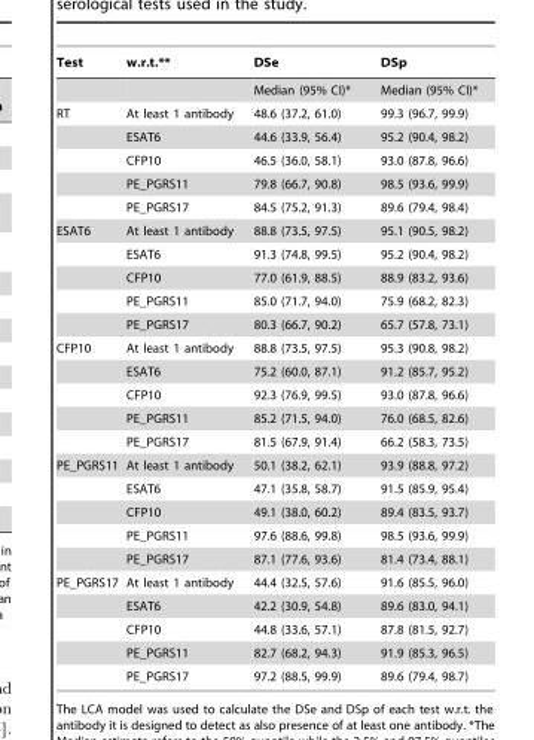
<table><thead><tr><td>Test</td><td>w.r.t.**</td><td>DSe</td><td>DSp</td></tr></thead><tbody><tr><td></td><td></td><td>Median (95% CI)*</td><td>Median (95% CI)*</td></tr><tr><td rowspan="5">RT</td><td>At least 1 antibody</td><td>48.6 (37.2, 61.0)</td><td>99.3 (96.7, 99.9)</td></tr><tr><td>ESAT6</td><td>44.6 (33.9, 56.4)</td><td>95.2 (90.4, 98.2)</td></tr><tr><td>CFP10</td><td>46.5 (36.0, 58.1)</td><td>93.0 (87.8, 96.6)</td></tr><tr><td>PE_PGRS11</td><td>79.8 (66.7, 90.8)</td><td>98.5 (93.6, 99.9)</td></tr><tr><td>PE_PGRS17</td><td>84.5 (75.2, 91.3)</td><td>89.6 (79.4, 98.4)</td></tr><tr><td rowspan="5">ESAT6</td><td>At least 1 antibody</td><td>88.8 (73.5, 97.5)</td><td>95.1 (90.5, 98.2)</td></tr><tr><td>ESAT6</td><td>91.3 (74.8, 99.5)</td><td>95.2 (90.4, 98.2)</td></tr><tr><td>CFP10</td><td>77.0 (61.9, 88.5)</td><td>88.9 (83.2, 93.6)</td></tr><tr><td>PE_PGRS11</td><td>85.0 (71.7, 94.0)</td><td>75.9 (68.2, 82.3)</td></tr><tr><td>PE_PGRS17</td><td>80.3 (66.7, 90.2)</td><td>65.7 (57.8, 73.1)</td></tr><tr><td rowspan="5">CFP10</td><td>At least 1 antibody</td><td>88.8 (73.5, 97.5)</td><td>95.3 (90.8, 98.2)</td></tr><tr><td>ESAT6</td><td>75.2 (60.0, 87.1)</td><td>91.2 (85.7, 95.2)</td></tr><tr><td>CFP10</td><td>92.3 (76.9, 99.5)</td><td>93.0 (87.8, 96.6)</td></tr><tr><td>PE_PGRS11</td><td>85.2 (71.5, 94.0)</td><td>76.0 (68.5, 82.6)</td></tr><tr><td>PE_PGRS17</td><td>81.5 (67.9, 91.4)</td><td>66.2 (58.3, 73.5)</td></tr><tr><td rowspan="5">PE_PGRS11</td><td>At least 1 antibody</td><td>50.1 (38.2, 62.1)</td><td>93.9 (88.8, 97.2)</td></tr><tr><td>ESAT6</td><td>47.1 (35.8, 58.7)</td><td>91.5 (85.9, 95.4)</td></tr><tr><td>CFP10</td><td>49.1 (38.0, 60.2)</td><td>89.4 (83.5, 93.7)</td></tr><tr><td>PE_PGRS11</td><td>97.6 (88.6, 99.8)</td><td>98.5 (93.6, 99.9)</td></tr><tr><td>PE_PGRS17</td><td>87.1 (77.6, 93.6)</td><td>81.4 (73.4, 88.1)</td></tr><tr><td rowspan="5">PE_PGRS17</td><td>At least 1 antibody</td><td>44.4 (32.5, 57.6)</td><td>91.6 (85.5, 96.0)</td></tr><tr><td>ESAT6</td><td>42.2 (30.9, 54.8)</td><td>89.6 (83.0, 94.1)</td></tr><tr><td>CFP10</td><td>44.8 (33.6, 57.1)</td><td>87.8 (81.5, 92.7)</td></tr><tr><td>PE_PGRS11</td><td>82.7 (68.2, 94.3)</td><td>91.9 (85.3, 96.5)</td></tr><tr><td>PE_PGRS17</td><td>97.2 (88.5, 99.9)</td><td>89.6 (79.4, 98.7)</td></tr></tbody></table>